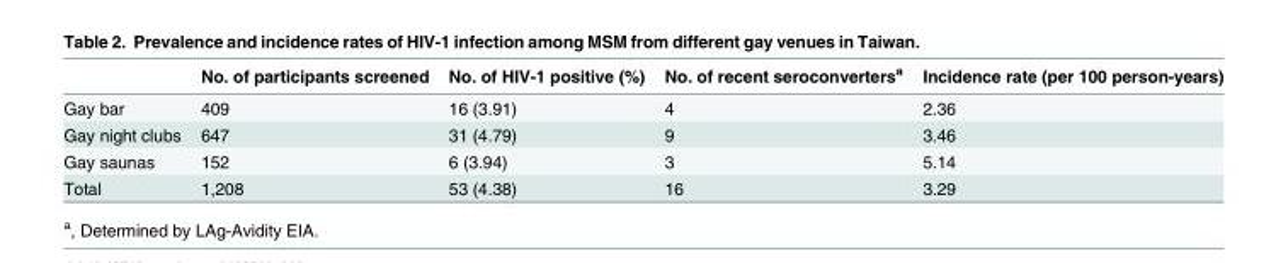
<table><thead><tr><td></td><td>No. of participants screened</td><td>No. of HIV-1 positive (%)</td><td>No. of recent seroconverters<sup>a</sup></td><td>Incidence rate (per 100 person-years)</td></tr></thead><tbody><tr><td>Gay bar</td><td>409</td><td>16 (3.91)</td><td>4</td><td>2.36</td></tr><tr><td>Gay night clubs</td><td>647</td><td>31 (4.79)</td><td>9</td><td>3.46</td></tr><tr><td>Gay saunas</td><td>152</td><td>6 (3.94)</td><td>3</td><td>5.14</td></tr><tr><td>Total</td><td>1,208</td><td>53 (4.38)</td><td>16</td><td>3.29</td></tr></tbody></table>